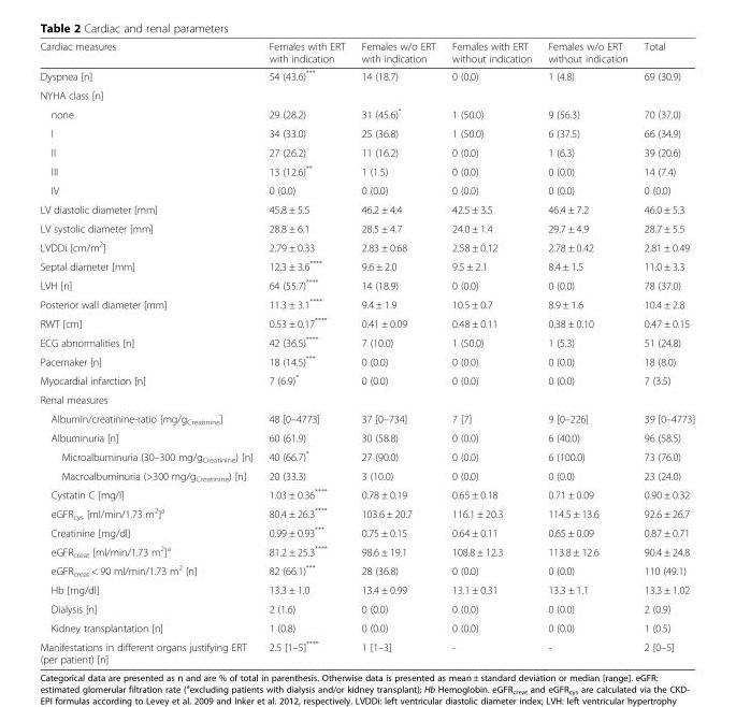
<table><thead><tr><td>Cardiac measures</td><td>Females with ERT with indication</td><td>Females w/o ERT with indication</td><td>Females with ERT without indication</td><td>Females w/o ERT without indication</td><td>Total</td></tr></thead><tbody><tr><td>Dyspnea [n]</td><td>54 (43.6)***</td><td>14 (18.7)</td><td>0 (0.0)</td><td>1 (4.8)</td><td>69 (30.9)</td></tr><tr><td colspan="6">NYHA class [n]</td></tr><tr><td>none</td><td>29 (28.2)</td><td>31 (45.6)*</td><td>1 (50.0)</td><td>9 (56.3)</td><td>70 (37.0)</td></tr><tr><td>I</td><td>34 (33.0)</td><td>25 (36.8)</td><td>1 (50.0)</td><td>6 (37.5)</td><td>66 (34.9)</td></tr><tr><td>II</td><td>27 (26.2)</td><td>11 (16.2)</td><td>0 (0.0)</td><td>1 (6.3)</td><td>39 (20.6)</td></tr><tr><td>III</td><td>13 (12.6)**</td><td>1 (1.5)</td><td>0 (0.0)</td><td>0 (0.0)</td><td>14 (7.4)</td></tr><tr><td>IV</td><td>0 (0.0)</td><td>0 (0.0)</td><td>0 (0.0)</td><td>0 (0.0)</td><td>0 (0.0)</td></tr><tr><td>LV diastolic diameter [mm]</td><td>45.8 ± 5.5</td><td>46.2 ± 4.4</td><td>42.5 ± 3.5</td><td>46.4 ± 7.2</td><td>46.0 ± 5.3</td></tr><tr><td>LV systolic diameter [mm]</td><td>28.8 ± 6.1</td><td>28.5 ± 4.7</td><td>24.0 ± 1.4</td><td>29.7 ± 4.9</td><td>28.7 ± 5.5</td></tr><tr><td>LVDDi [cm/m<sup>2</sup>]</td><td>2.79 ± 0.33</td><td>2.83 ± 0.68</td><td>2.58 ± 0.12</td><td>2.78 ± 0.42</td><td>2.81 ± 0.49</td></tr><tr><td>Septal diameter [mm]</td><td>12.3 ± 3.6****</td><td>9.6 ± 2.0</td><td>9.5 ± 2.1</td><td>8.4 ± 1.5</td><td>11.0 ± 3.3</td></tr><tr><td>LVH [n]</td><td>64 (55.7)****</td><td>14 (18.9)</td><td>0 (0.0)</td><td>0 (0.0)</td><td>78 (37.0)</td></tr><tr><td>Posterior wall diameter [mm]</td><td>11.3 ± 3.1****</td><td>9.4 ± 1.9</td><td>10.5 ± 0.7</td><td>8.9 ± 1.6</td><td>10.4 ± 2.8</td></tr><tr><td>RWT [cm]</td><td>0.53 ± 0.17****</td><td>0.41 ± 0.09</td><td>0.48 ± 0.11</td><td>0.38 ± 0.10</td><td>0.47 ± 0.15</td></tr><tr><td>ECG abnormalities [n]</td><td>42 (36.5)****</td><td>7 (10.0)</td><td>1 (50.0)</td><td>1 (5.3)</td><td>51 (24.8)</td></tr><tr><td>Pacemaker [n]</td><td>18 (14.5)***</td><td>0 (0.0)</td><td>0 (0.0)</td><td>0 (0.0)</td><td>18 (8.0)</td></tr><tr><td>Myocardial infarction [n]</td><td>7 (6.9)*</td><td>0 (0.0)</td><td>0 (0.0)</td><td>0 (0.0)</td><td>7 (3.5)</td></tr><tr><td colspan="6">Renal measures</td></tr><tr><td>Albumin/creatinine-ratio [mg/g<sub>Creatinine</sub>]</td><td>48 [0–4773]</td><td>37 [0–734]</td><td>7 [7]</td><td>9 [0–226]</td><td>39 [0–4773]</td></tr><tr><td>Albuminuria [n]</td><td>60 (61.9)</td><td>30 (58.8)</td><td>0 (0.0)</td><td>6 (40.0)</td><td>96 (58.5)</td></tr><tr><td>Microalbuminuria (30–300 mg/g<sub>Creatinine</sub>) [n]</td><td>40 (66.7)*</td><td>27 (90.0)</td><td>0 (0.0)</td><td>6 (100.0)</td><td>73 (76.0)</td></tr><tr><td>Macroalbuminuria (&gt;300 mg/g<sub>Creatinine</sub>) [n]</td><td>20 (33.3)</td><td>3 (10.0)</td><td>0 (0.0)</td><td>0 (0.0)</td><td>23 (24.0)</td></tr><tr><td>Cystatin C [mg/l]</td><td>1.03 ± 0.36****</td><td>0.78 ± 0.19</td><td>0.65 ± 0.18</td><td>0.71 ± 0.09</td><td>0.90 ± 0.32</td></tr><tr><td>eGFR<sub>cys</sub> [ml/min/1.73 m<sup>2</sup>]<sup>a</sup></td><td>80.4 ± 26.3****</td><td>103.6 ± 20.7</td><td>116.1 ± 20.3</td><td>114.5 ± 13.6</td><td>92.6 ± 26.7</td></tr><tr><td>Creatinine [mg/dl]</td><td>0.99 ± 0.93***</td><td>0.75 ± 0.15</td><td>0.64 ± 0.11</td><td>0.65 ± 0.09</td><td>0.87 ± 0.71</td></tr><tr><td>eGFR<sub>creat</sub> [ml/min/1.73 m<sup>2</sup>]<sup>a</sup></td><td>81.2 ± 25.3****</td><td>98.6 ± 19.1</td><td>108.8 ± 12.3</td><td>113.8 ± 12.6</td><td>90.4 ± 24.8</td></tr><tr><td>eGFR<sub>creat</sub> &lt; 90 ml/min/1.73 m<sup>2</sup> [n]</td><td>82 (66.1)***</td><td>28 (36.8)</td><td>0 (0.0)</td><td>0 (0.0)</td><td>110 (49.1)</td></tr><tr><td>Hb [mg/dl]</td><td>13.3 ± 1.0</td><td>13.4 ± 0.99</td><td>13.1 ± 0.31</td><td>13.3 ± 1.1</td><td>13.3 ± 1.02</td></tr><tr><td>Dialysis [n]</td><td>2 (1.6)</td><td>0 (0.0)</td><td>0 (0.0)</td><td>0 (0.0)</td><td>2 (0.9)</td></tr><tr><td>Kidney transplantation [n]</td><td>1 (0.8)</td><td>0 (0.0)</td><td>0 (0.0)</td><td>0 (0.0)</td><td>1 (0.5)</td></tr><tr><td>Manifestations in different organs justifying ERT (per patient) [n]</td><td>2.5 [1–5]****</td><td>1 [1–3]</td><td>-</td><td>-</td><td>2 [0–5]</td></tr></tbody></table>